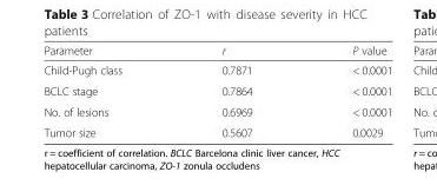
<table><thead><tr><td>Parameter</td><td>r</td><td>P value</td></tr></thead><tbody><tr><td>Child-Pugh class</td><td>0.7871</td><td>&lt; 0.0001</td></tr><tr><td>BCLC stage</td><td>0.7864</td><td>&lt; 0.0001</td></tr><tr><td>No. of lesions</td><td>0.6969</td><td>&lt; 0.0001</td></tr><tr><td>Tumor size</td><td>0.5607</td><td>0.0029</td></tr></tbody></table>